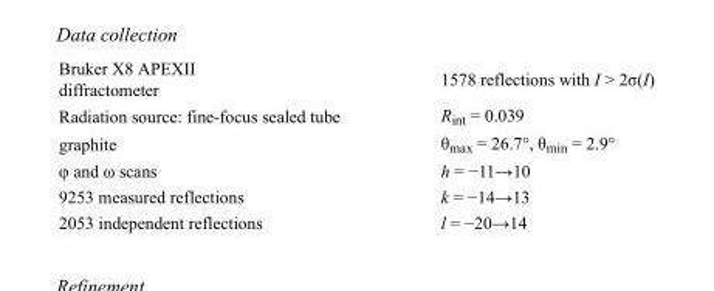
<table><tbody><tr><td>Bruker X8 APEXII diffractometer</td><td>1578 reflections with I &gt; 2σ(I)</td></tr><tr><td>Radiation source: fine-focus sealed tube</td><td>R<sub>int</sub> = 0.039</td></tr><tr><td>graphite</td><td>θ<sub>max</sub> = 26.7°, θ<sub>min</sub> = 2.9°</td></tr><tr><td>φ and ω scans</td><td>h = −11→10</td></tr><tr><td>9253 measured reflections</td><td>k = −14→13</td></tr><tr><td>2053 independent reflections</td><td>l = −20→14</td></tr></tbody></table>